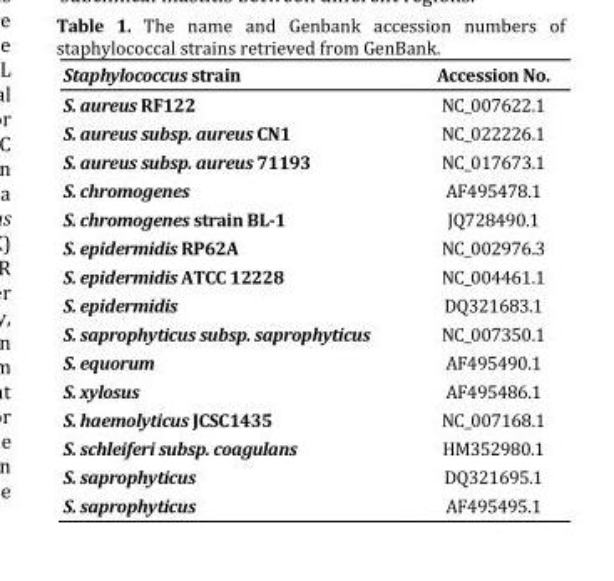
<table><thead><tr><td>Staphylococcus strain</td><td>Accession No.</td></tr></thead><tbody><tr><td>S. aureus RF122</td><td>NC_007622.1</td></tr><tr><td>S. aureus subsp. aureus CN1</td><td>NC_022226.1</td></tr><tr><td>S. aureus subsp. aureus 71193</td><td>NC_017673.1</td></tr><tr><td>S. chromogenes</td><td>AF495478.1</td></tr><tr><td>S. chromogenes strain BL-1</td><td>JQ728490.1</td></tr><tr><td>S. epidermidis RP62A</td><td>NC_002976.3</td></tr><tr><td>S. epidermidis ATCC 12228</td><td>NC_004461.1</td></tr><tr><td>S. epidermidis</td><td>DQ321683.1</td></tr><tr><td>S. saprophyticus subsp. saprophyticus</td><td>NC_007350.1</td></tr><tr><td>S. equorum</td><td>AF495490.1</td></tr><tr><td>S. xylosus</td><td>AF495486.1</td></tr><tr><td>S. haemolyticus JCSC1435</td><td>NC_007168.1</td></tr><tr><td>S. schleiferi subsp. coagulans</td><td>HM352980.1</td></tr><tr><td>S. saprophyticus</td><td>DQ321695.1</td></tr><tr><td>S. saprophyticus</td><td>AF495495.1</td></tr></tbody></table>